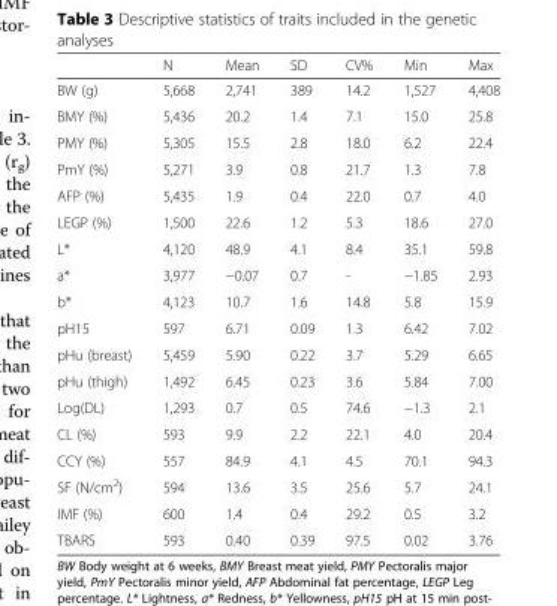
<table><thead><tr><td></td><td>N</td><td>Mean</td><td>SD</td><td>CV%</td><td>Min</td><td>Max</td></tr></thead><tbody><tr><td>BW (g)</td><td>5,668</td><td>2,741</td><td>389</td><td>14.2</td><td>1,527</td><td>4,408</td></tr><tr><td>BMY (%)</td><td>5,436</td><td>20.2</td><td>1.4</td><td>7.1</td><td>15.0</td><td>25.8</td></tr><tr><td>PMY (%)</td><td>5,305</td><td>15.5</td><td>2.8</td><td>18.0</td><td>6.2</td><td>22.4</td></tr><tr><td>PmY (%)</td><td>5,271</td><td>3.9</td><td>0.8</td><td>21.7</td><td>1.3</td><td>7.8</td></tr><tr><td>AFP (%)</td><td>5,435</td><td>1.9</td><td>0.4</td><td>22.0</td><td>0.7</td><td>4.0</td></tr><tr><td>LEGP (%)</td><td>1,500</td><td>22.6</td><td>1.2</td><td>5.3</td><td>18.6</td><td>27.0</td></tr><tr><td>L*</td><td>4,120</td><td>48.9</td><td>4.1</td><td>8.4</td><td>35.1</td><td>59.8</td></tr><tr><td>a*</td><td>3,977</td><td>−0.07</td><td>0.7</td><td>-</td><td>−1.85</td><td>2.93</td></tr><tr><td>b*</td><td>4,123</td><td>10.7</td><td>1.6</td><td>14.8</td><td>5.8</td><td>15.9</td></tr><tr><td>pH15</td><td>597</td><td>6.71</td><td>0.09</td><td>1.3</td><td>6.42</td><td>7.02</td></tr><tr><td>pHu (breast)</td><td>5,459</td><td>5.90</td><td>0.22</td><td>3.7</td><td>5.29</td><td>6.65</td></tr><tr><td>pHu (thigh)</td><td>1,492</td><td>6.45</td><td>0.23</td><td>3.6</td><td>5.84</td><td>7.00</td></tr><tr><td>Log(DL)</td><td>1,293</td><td>0.7</td><td>0.5</td><td>74.6</td><td>−1.3</td><td>2.1</td></tr><tr><td>CL (%)</td><td>593</td><td>9.9</td><td>2.2</td><td>22.1</td><td>4.0</td><td>20.4</td></tr><tr><td>CCY (%)</td><td>557</td><td>84.9</td><td>4.1</td><td>4.5</td><td>70.1</td><td>94.3</td></tr><tr><td>SF (N/cm<sup>2</sup>)</td><td>594</td><td>13.6</td><td>3.5</td><td>25.6</td><td>5.7</td><td>24.1</td></tr><tr><td>IMF (%)</td><td>600</td><td>1.4</td><td>0.4</td><td>29.2</td><td>0.5</td><td>3.2</td></tr><tr><td>TBARS</td><td>593</td><td>0.40</td><td>0.39</td><td>97.5</td><td>0.02</td><td>3.76</td></tr></tbody></table>